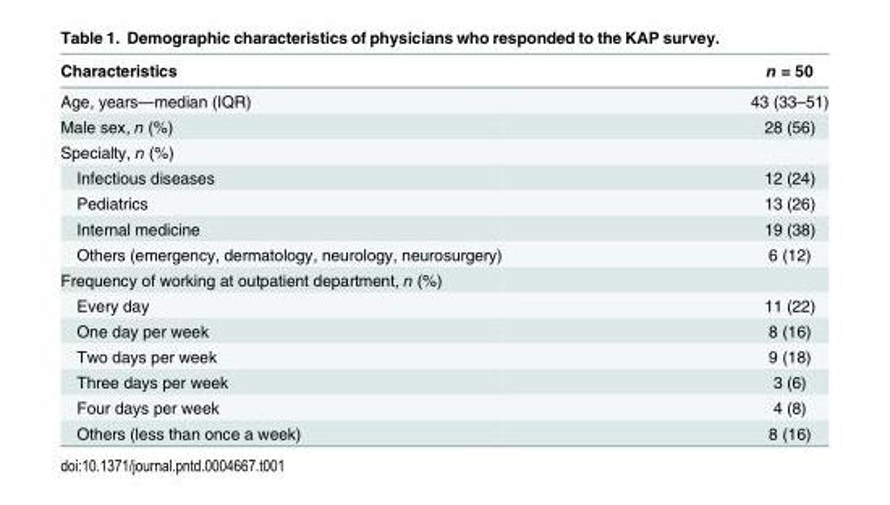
<table><thead><tr><td>Characteristics</td><td>n = 50</td></tr></thead><tbody><tr><td>Age, years—median (IQR)</td><td>43 (33–51)</td></tr><tr><td>Male sex, n (%)</td><td>28 (56)</td></tr><tr><td colspan="2">Specialty, n (%)</td></tr><tr><td>Infectious diseases</td><td>12 (24)</td></tr><tr><td>Pediatrics</td><td>13 (26)</td></tr><tr><td>Internal medicine</td><td>19 (38)</td></tr><tr><td>Others (emergency, dermatology, neurology, neurosurgery)</td><td>6 (12)</td></tr><tr><td colspan="2">Frequency of working at outpatient department, n (%)</td></tr><tr><td>Every day</td><td>11 (22)</td></tr><tr><td>One day per week</td><td>8 (16)</td></tr><tr><td>Two days per week</td><td>9 (18)</td></tr><tr><td>Three days per week</td><td>3 (6)</td></tr><tr><td>Four days per week</td><td>4 (8)</td></tr><tr><td>Others (less than once a week)</td><td>8 (16)</td></tr></tbody></table>